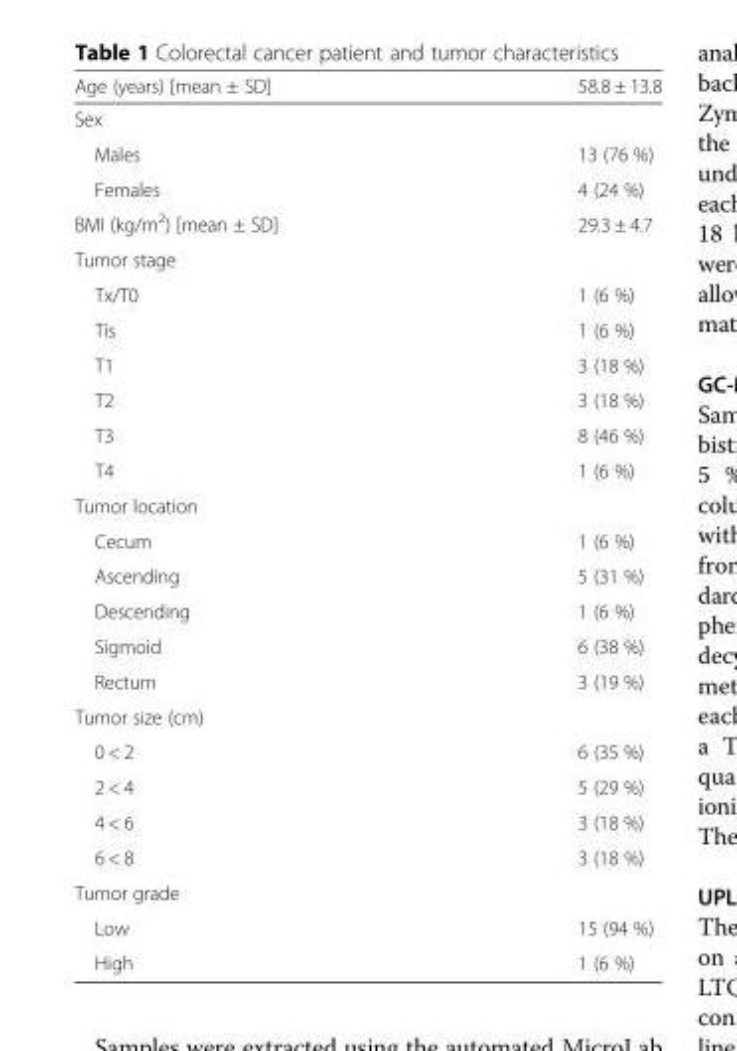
<table><thead><tr><td>Age (years) [mean ± SD]</td><td>58.8 ± 13.8</td></tr></thead><tbody><tr><td colspan="2">Sex</td></tr><tr><td>Males</td><td>13 (76 %)</td></tr><tr><td>Females</td><td>4 (24 %)</td></tr><tr><td>BMI (kg/m<sup>2</sup>) [mean ± SD]</td><td>29.3 ± 4.7</td></tr><tr><td colspan="2">Tumor stage</td></tr><tr><td>Tx/T0</td><td>1 (6 %)</td></tr><tr><td>Tis</td><td>1 (6 %)</td></tr><tr><td>T1</td><td>3 (18 %)</td></tr><tr><td>T2</td><td>3 (18 %)</td></tr><tr><td>T3</td><td>8 (46 %)</td></tr><tr><td>T4</td><td>1 (6 %)</td></tr><tr><td colspan="2">Tumor location</td></tr><tr><td>Cecum</td><td>1 (6 %)</td></tr><tr><td>Ascending</td><td>5 (31 %)</td></tr><tr><td>Descending</td><td>1 (6 %)</td></tr><tr><td>Sigmoid</td><td>6 (38 %)</td></tr><tr><td>Rectum</td><td>3 (19 %)</td></tr><tr><td colspan="2">Tumor size (cm)</td></tr><tr><td>0 &lt; 2</td><td>6 (35 %)</td></tr><tr><td>2 &lt; 4</td><td>5 (29 %)</td></tr><tr><td>4 &lt; 6</td><td>3 (18 %)</td></tr><tr><td>6 &lt; 8</td><td>3 (18 %)</td></tr><tr><td colspan="2">Tumor grade</td></tr><tr><td>Low</td><td>15 (94 %)</td></tr><tr><td>High</td><td>1 (6 %)</td></tr></tbody></table>